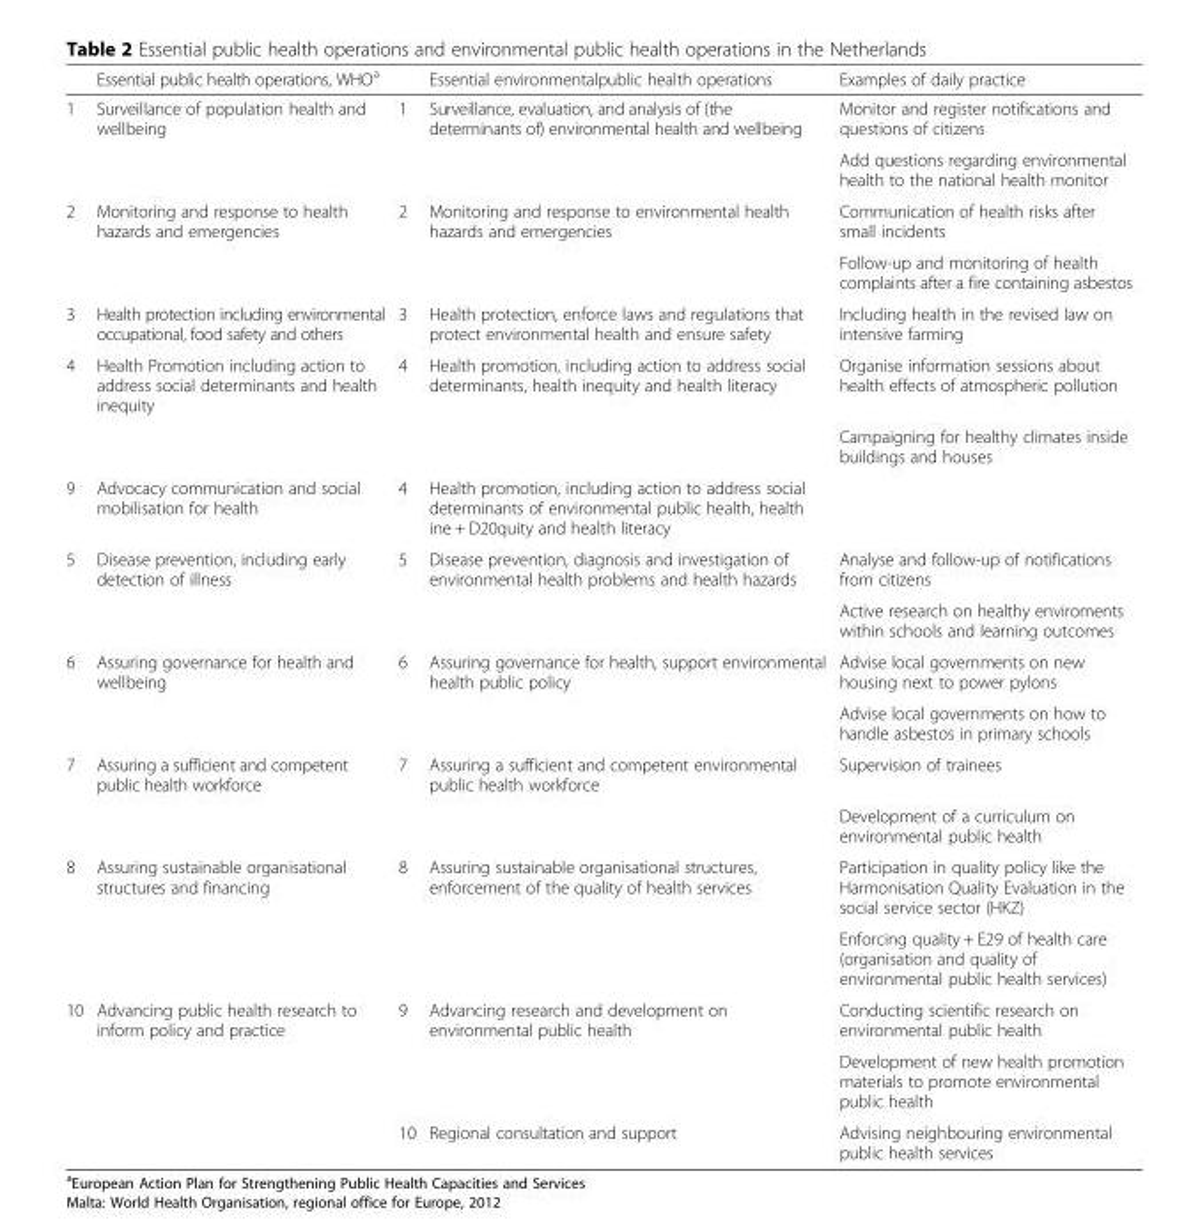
<table><thead><tr><td></td><td>Essential public health operations, WHO<sup>a</sup></td><td></td><td>Essential environmentalpublic health operations</td><td>Examples of daily practice</td></tr></thead><tbody><tr><td rowspan="2">1</td><td>Surveillance of population health and wellbeing</td><td>1</td><td>Surveillance, evaluation, and analysis of (the determinants of) environmental health and wellbeing</td><td>Monitor and register notifications and questions of citizens</td></tr><tr><td></td><td></td><td></td><td>Add questions regarding environmental health to the national health monitor</td></tr><tr><td rowspan="2">2</td><td>Monitoring and response to health hazards and emergencies</td><td>2</td><td>Monitoring and response to environmental health hazards and emergencies</td><td>Communication of health risks after small incidents</td></tr><tr><td></td><td></td><td></td><td>Follow-up and monitoring of health complaints after a fire containing asbestos</td></tr><tr><td>3</td><td>Health protection including environmental occupational, food safety and others</td><td>3</td><td>Health protection, enforce laws and regulations that protect environmental health and ensure safety</td><td>Including health in the revised law on intensive farming</td></tr><tr><td rowspan="2">4</td><td>Health Promotion including action to address social determinants and health inequity</td><td>4</td><td>Health promotion, including action to address social determinants, health inequity and health literacy</td><td>Organise information sessions about health effects of atmospheric pollution</td></tr><tr><td></td><td></td><td></td><td>Campaigning for healthy climates inside buildings and houses</td></tr><tr><td>9</td><td>Advocacy communication and social mobilisation for health</td><td>4</td><td>Health promotion, including action to address social determinants of environmental public health, health ine + D20quity and health literacy</td><td></td></tr><tr><td rowspan="2">5</td><td>Disease prevention, including early detection of illness</td><td>5</td><td>Disease prevention, diagnosis and investigation of environmental health problems and health hazards</td><td>Analyse and follow-up of notifications from citizens</td></tr><tr><td></td><td></td><td></td><td>Active research on healthy enviroments within schools and learning outcomes</td></tr><tr><td rowspan="2">6</td><td>Assuring governance for health and wellbeing</td><td>6</td><td>Assuring governance for health, support environmental health public policy</td><td>Advise local governments on new housing next to power pylons</td></tr><tr><td></td><td></td><td></td><td>Advise local governments on how to handle asbestos in primary schools</td></tr><tr><td rowspan="2">7</td><td>Assuring a sufficient and competent public health workforce</td><td>7</td><td>Assuring a sufficient and competent environmental public health workforce</td><td>Supervision of trainees</td></tr><tr><td></td><td></td><td></td><td>Development of a curriculum on environmental public health</td></tr><tr><td rowspan="2">8</td><td>Assuring sustainable organisational structures and financing</td><td>8</td><td>Assuring sustainable organisational structures, enforcement of the quality of health services</td><td>Participation in quality policy like the Harmonisation Quality Evaluation in the social service sector (HKZ)</td></tr><tr><td></td><td></td><td></td><td>Enforcing quality + E29 of health care (organisation and quality of environmental public health services)</td></tr><tr><td rowspan="3">10</td><td>Advancing public health research to inform policy and practice</td><td>9</td><td>Advancing research and development on environmental public health</td><td>Conducting scientific research on environmental public health</td></tr><tr><td></td><td></td><td></td><td>Development of new health promotion materials to promote environmental public health</td></tr><tr><td></td><td>10</td><td>Regional consultation and support</td><td>Advising neighbouring environmental public health services</td></tr></tbody></table>